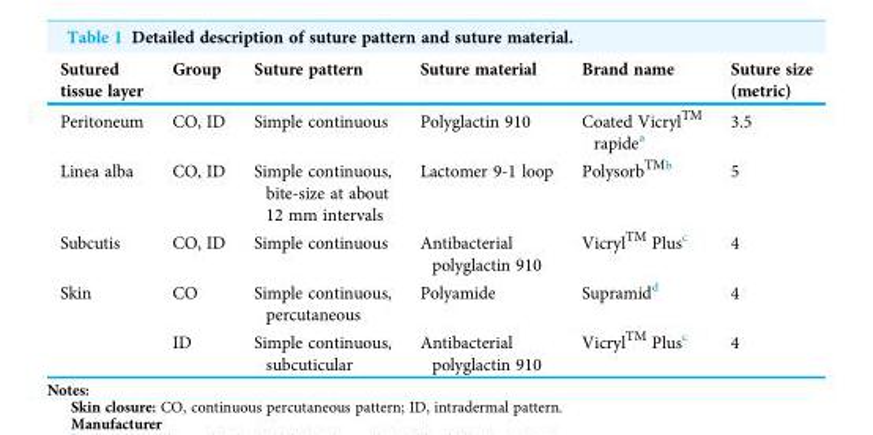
<table><thead><tr><td>Sutured tissue layer</td><td>Group</td><td>Suture pattern</td><td>Suture material</td><td>Brand name</td><td>Suture size (metric)</td></tr></thead><tbody><tr><td>Peritoneum</td><td>CO, ID</td><td>Simple continuous</td><td>Polyglactin 910</td><td>Coated VicrylTM rapide<sup>a</sup></td><td>3.5</td></tr><tr><td>Linea alba</td><td>CO, ID</td><td>Simple continuous, bite-size at about 12 mm intervals</td><td>Lactomer 9-1 loop</td><td>PolysorbTM<sup>b</sup></td><td>5</td></tr><tr><td>Subcutis</td><td>CO, ID</td><td>Simple continuous</td><td>Antibacterial polyglactin 910</td><td>VicrylTM Plus<sup>c</sup></td><td>4</td></tr><tr><td rowspan="2">Skin</td><td>CO</td><td>Simple continuous, percutaneous</td><td>Polyamide</td><td>Supramid<sup>d</sup></td><td>4</td></tr><tr><td>ID</td><td>Simple continuous, subcuticular</td><td>Antibacterial polyglactin 910</td><td>VicrylTM Plus<sup>c</sup></td><td>4</td></tr></tbody></table>